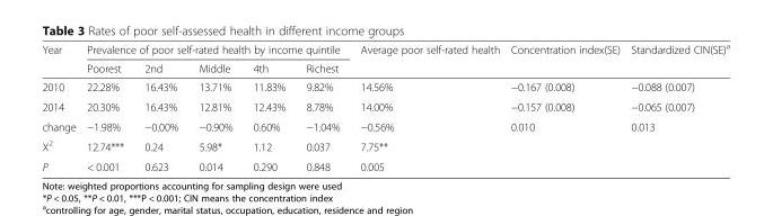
<table><thead><tr><td rowspan="2">Year</td><td colspan="5">Prevalence of poor self-rated health by income quintile</td><td rowspan="2">Average poor self-rated health</td><td rowspan="2">Concentration index(SE)</td><td rowspan="2">Standardized CIN(SE)<sup>a</sup></td></tr><tr><td>Poorest</td><td>2nd</td><td>Middle</td><td>4th</td><td>Richest</td></tr></thead><tbody><tr><td>2010</td><td>22.28%</td><td>16.43%</td><td>13.71%</td><td>11.83%</td><td>9.82%</td><td>14.56%</td><td>−0.167 (0.008)</td><td>−0.088 (0.007)</td></tr><tr><td>2014</td><td>20.30%</td><td>16.43%</td><td>12.81%</td><td>12.43%</td><td>8.78%</td><td>14.00%</td><td>−0.157 (0.008)</td><td>−0.065 (0.007)</td></tr><tr><td>change</td><td>−1.98%</td><td>−0.00%</td><td>−0.90%</td><td>0.60%</td><td>−1.04%</td><td>−0.56%</td><td>0.010</td><td>0.013</td></tr><tr><td>Χ<sup>2</sup></td><td>12.74***</td><td>0.24</td><td>5.98*</td><td>1.12</td><td>0.037</td><td>7.75**</td><td></td><td></td></tr><tr><td>P</td><td>&lt; 0.001</td><td>0.623</td><td>0.014</td><td>0.290</td><td>0.848</td><td>0.005</td><td></td><td></td></tr></tbody></table>